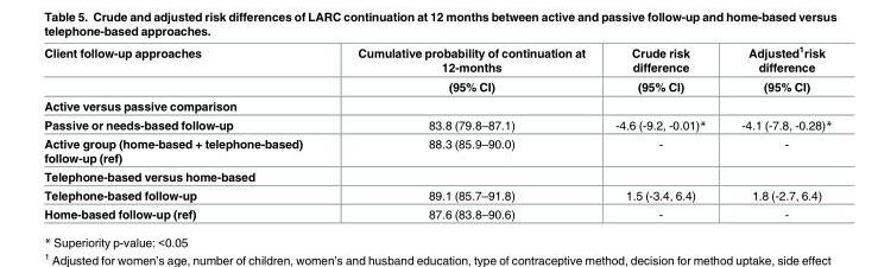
<table><thead><tr><td rowspan="2">Client follow-up approaches</td><td rowspan="2">Cumulative probability of continuation at 12-months (95% CI)</td><td rowspan="2">Crude risk difference (95% CI)</td><td rowspan="2">Adjusted<sup>1</sup>risk difference (95% CI)</td></tr><tr></tr></thead><tbody><tr><td colspan="4">Active versus passive comparison</td></tr><tr><td>Passive or needs-based follow-up</td><td>83.8 (79.8–87.1)</td><td>-4.6 (-9.2, -0.01)*</td><td>-4.1 (-7.8, -0.28)*</td></tr><tr><td>Active group (home-based + telephone-based) follow-up (ref)</td><td>88.3 (85.9–90.0)</td><td>-</td><td>-</td></tr><tr><td colspan="4">Telephone-based versus home-based</td></tr><tr><td>Telephone-based follow-up</td><td>89.1 (85.7–91.8)</td><td>1.5 (-3.4, 6.4)</td><td>1.8 (-2.7, 6.4)</td></tr><tr><td>Home-based follow-up (ref)</td><td>87.6 (83.8–90.6)</td><td>-</td><td>-</td></tr></tbody></table>